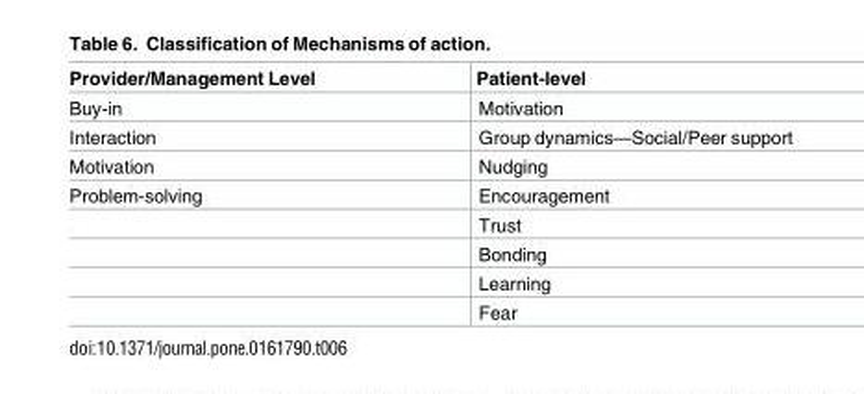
<table><thead><tr><td>Provider/Management Level</td><td>Patient-level</td></tr></thead><tbody><tr><td>Buy-in</td><td>Motivation</td></tr><tr><td>Interaction</td><td>Group dynamics—Social/Peer support</td></tr><tr><td>Motivation</td><td>Nudging</td></tr><tr><td rowspan="5">Problem-solving</td><td>Encouragement</td></tr><tr><td>Trust</td></tr><tr><td>Bonding</td></tr><tr><td>Learning</td></tr><tr><td>Fear</td></tr></tbody></table>